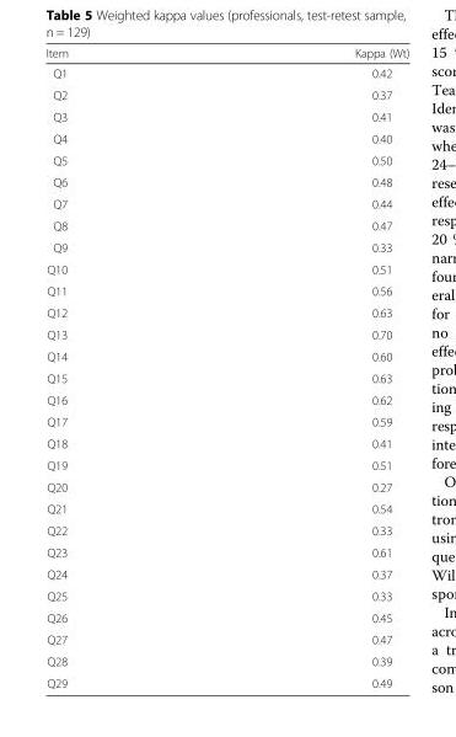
<table><thead><tr><td>Item</td><td>Kappa (Wt)</td></tr></thead><tbody><tr><td>Q1</td><td>0.42</td></tr><tr><td>Q2</td><td>0.37</td></tr><tr><td>Q3</td><td>0.41</td></tr><tr><td>Q4</td><td>0.40</td></tr><tr><td>Q5</td><td>0.50</td></tr><tr><td>Q6</td><td>0.48</td></tr><tr><td>Q7</td><td>0.44</td></tr><tr><td>Q8</td><td>0.47</td></tr><tr><td>Q9</td><td>0.33</td></tr><tr><td>Q10</td><td>0.51</td></tr><tr><td>Q11</td><td>0.56</td></tr><tr><td>Q12</td><td>0.63</td></tr><tr><td>Q13</td><td>0.70</td></tr><tr><td>Q14</td><td>0.60</td></tr><tr><td>Q15</td><td>0.63</td></tr><tr><td>Q16</td><td>0.62</td></tr><tr><td>Q17</td><td>0.59</td></tr><tr><td>Q18</td><td>0.41</td></tr><tr><td>Q19</td><td>0.51</td></tr><tr><td>Q20</td><td>0.27</td></tr><tr><td>Q21</td><td>0.54</td></tr><tr><td>Q22</td><td>0.33</td></tr><tr><td>Q23</td><td>0.61</td></tr><tr><td>Q24</td><td>0.37</td></tr><tr><td>Q25</td><td>0.33</td></tr><tr><td>Q26</td><td>0.45</td></tr><tr><td>Q27</td><td>0.47</td></tr><tr><td>Q28</td><td>0.39</td></tr><tr><td>Q29</td><td>0.49</td></tr></tbody></table>